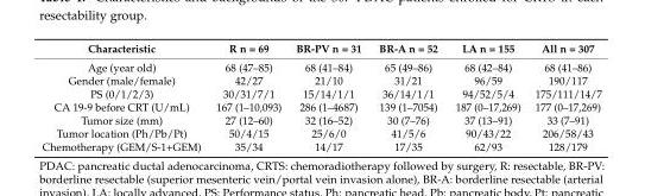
<table><thead><tr><td>Characteristic</td><td>R n = 69</td><td>BR-PV n = 31</td><td>BR-A n = 52</td><td>LA n = 155</td><td>All n = 307</td></tr></thead><tbody><tr><td>Age (year old)</td><td>68 (47–85)</td><td>68 (41–84)</td><td>65 (49–86)</td><td>68 (42–84)</td><td>68 (41–86)</td></tr><tr><td>Gender (male/female)</td><td>42/27</td><td>21/10</td><td>31/21</td><td>96/59</td><td>190/117</td></tr><tr><td>PS (0/1/2/3)</td><td>30/31/7/1</td><td>15/14/1/1</td><td>36/14/1/1</td><td>94/52/5/4</td><td>175/111/14/7</td></tr><tr><td>CA 19-9 before CRT (U/mL)</td><td>167 (1–10,093)</td><td>286 (1–4687)</td><td>139 (1–7054)</td><td>187 (0–17,269)</td><td>177 (0–17,269)</td></tr><tr><td>Tumor size (mm)</td><td>27 (12–60)</td><td>32 (16–52)</td><td>30 (7–76)</td><td>37 (13–91)</td><td>33 (7–91)</td></tr><tr><td>Tumor location (Ph/Pb/Pt)</td><td>50/4/15</td><td>25/6/0</td><td>41/5/6</td><td>90/43/22</td><td>206/58/43</td></tr><tr><td>Chemotherapy (GEM/S-1+GEM)</td><td>35/34</td><td>14/17</td><td>17/35</td><td>62/93</td><td>128/179</td></tr></tbody></table>